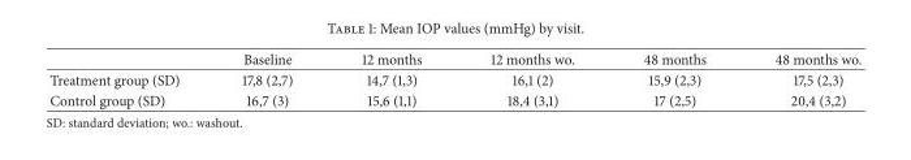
<table><thead><tr><td></td><td>Baseline</td><td>12 months</td><td>12 months wo.</td><td>48 months</td><td>48 months wo.</td></tr></thead><tbody><tr><td>Treatment group (SD)</td><td>17,8 (2,7)</td><td>14,7 (1,3)</td><td>16,1 (2)</td><td>15,9 (2,3)</td><td>17,5 (2,3)</td></tr><tr><td>Control group (SD)</td><td>16,7 (3)</td><td>15,6 (1,1)</td><td>18,4 (3,1)</td><td>17 (2,5)</td><td>20,4 (3,2)</td></tr></tbody></table>